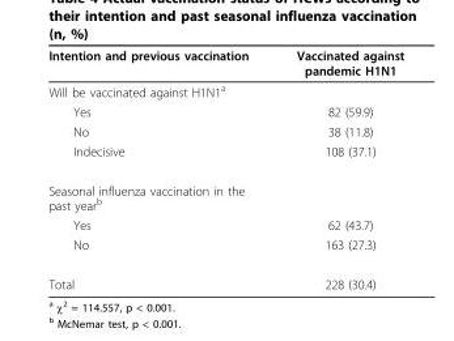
<table><thead><tr><td>Intention and previous vaccination</td><td>Vaccinated against pandemic H1N1</td></tr></thead><tbody><tr><td colspan="2">Will be vaccinated against H1N1<sup>a</sup></td></tr><tr><td>Yes</td><td>82 (59.9)</td></tr><tr><td>No</td><td>38 (11.8)</td></tr><tr><td>Indecisive</td><td>108 (37.1)</td></tr><tr><td colspan="2">Seasonal influenza vaccination in the past year<sup>b</sup></td></tr><tr><td>Yes</td><td>62 (43.7)</td></tr><tr><td>No</td><td>163 (27.3)</td></tr><tr><td>Total</td><td>228 (30.4)</td></tr></tbody></table>